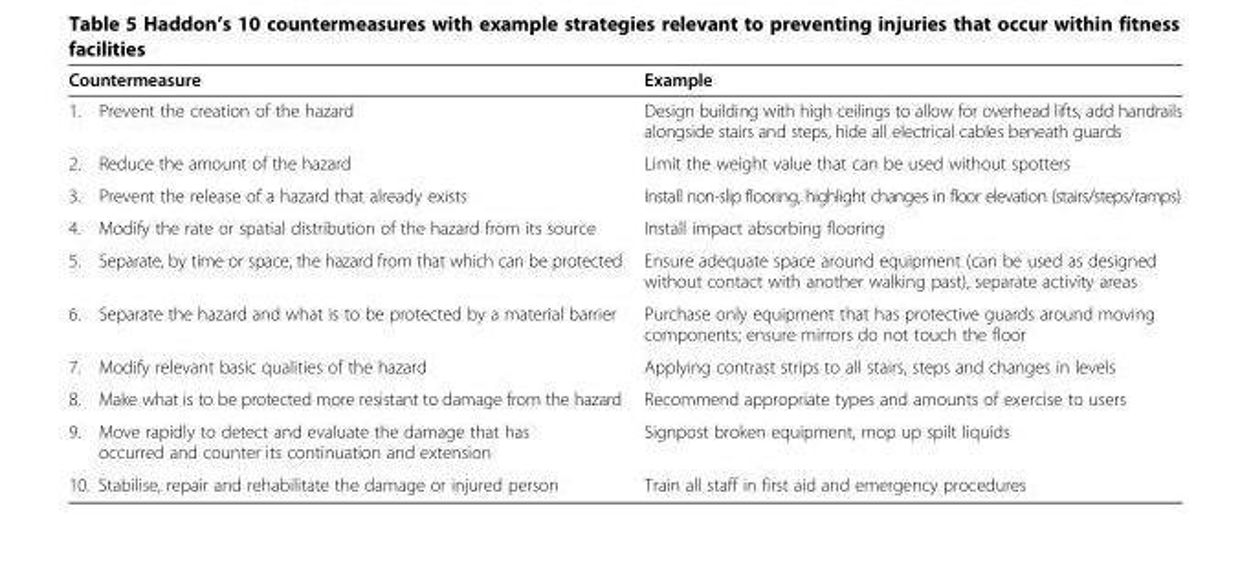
<table><thead><tr><td>Countermeasure</td><td>Example</td></tr></thead><tbody><tr><td>1. Prevent the creation of the hazard</td><td>Design building with high ceilings to allow for overhead lifts, add handrails alongside stairs and steps, hide all electrical cables beneath guards</td></tr><tr><td>2. Reduce the amount of the hazard</td><td>Limit the weight value that can be used without spotters</td></tr><tr><td>3. Prevent the release of a hazard that already exists</td><td>Install non-slip flooring, highlight changes in floor elevation (stairs/steps/ramps)</td></tr><tr><td>4. Modify the rate or spatial distribution of the hazard from its source</td><td>Install impact absorbing flooring</td></tr><tr><td>5. Separate, by time or space, the hazard from that which can be protected</td><td>Ensure adequate space around equipment (can be used as designed without contact with another walking past), separate activity areas</td></tr><tr><td>6. Separate the hazard and what is to be protected by a material barrier</td><td>Purchase only equipment that has protective guards around moving components; ensure mirrors do not touch the floor</td></tr><tr><td>7. Modify relevant basic qualities of the hazard</td><td>Applying contrast strips to all stairs, steps and changes in levels</td></tr><tr><td>8. Make what is to be protected more resistant to damage from the hazard</td><td>Recommend appropriate types and amounts of exercise to users</td></tr><tr><td>9. Move rapidly to detect and evaluate the damage that has occurred and counter its continuation and extension</td><td>Signpost broken equipment, mop up spilt liquids</td></tr><tr><td>10. Stabilise, repair and rehabilitate the damage or injured person</td><td>Train all staff in first aid and emergency procedures</td></tr></tbody></table>